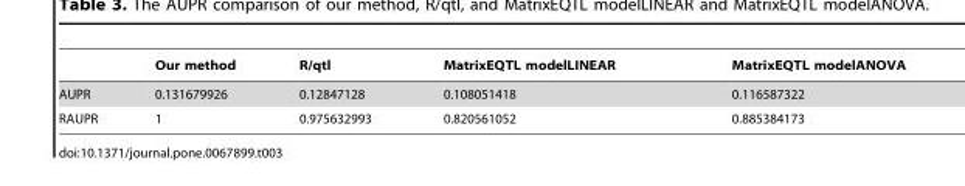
<table><thead><tr><td></td><td>Our method</td><td>R/qtl</td><td>MatrixEQTL modelLINEAR</td><td>MatrixEQTL modelANOVA</td></tr></thead><tbody><tr><td>AUPR</td><td>0.131679926</td><td>0.12847128</td><td>0.108051418</td><td>0.116587322</td></tr><tr><td>RAUPR</td><td>1</td><td>0.975632993</td><td>0.820561052</td><td>0.885384173</td></tr></tbody></table>